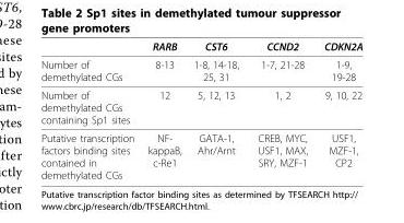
<table><thead><tr><td></td><td>RARB</td><td>CST6</td><td>CCND2</td><td>CDKN2A</td></tr></thead><tbody><tr><td>Number of demethylated CGs</td><td>8-13</td><td>1-8, 14-18, 25, 31</td><td>1-7, 21-28</td><td>1-9, 19-28</td></tr><tr><td>Number of demethylated CGs containing Sp1 sites</td><td>12</td><td>5, 12, 13</td><td>1, 2</td><td>9, 10, 22</td></tr><tr><td>Putative transcription factors binding sites contained in demethylated CGs</td><td>NF- kappaB, c-Re1</td><td>GATA-1, Ahr/Arnt</td><td>CREB, MYC, USF1, MAX, SRY, MZF-1</td><td>USF1, MZF-1, CP2</td></tr></tbody></table>